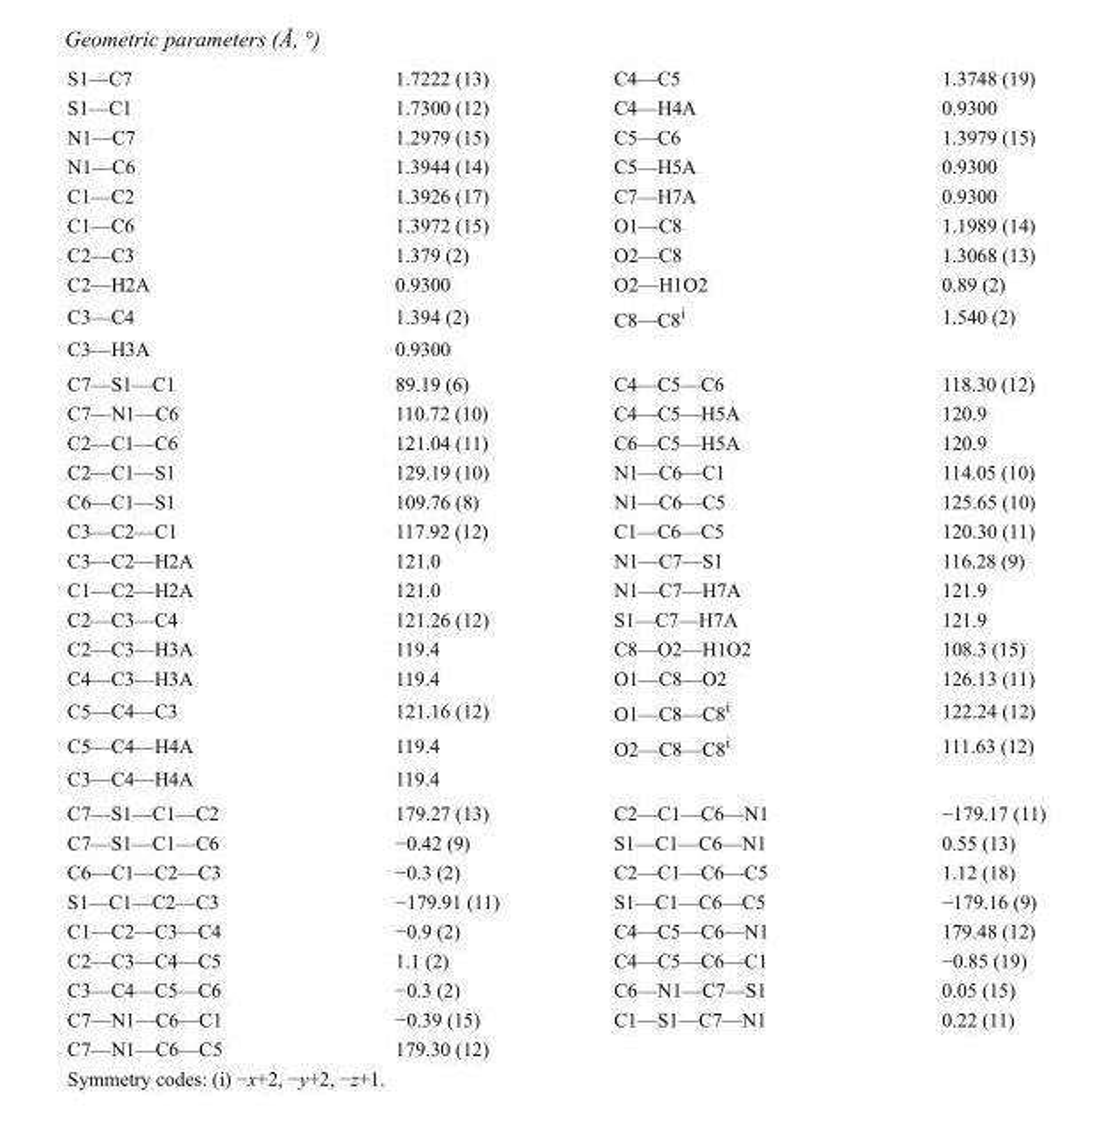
<table><tbody><tr><td>S1—C7</td><td>1.7222 (13)</td><td>C4—C5</td><td>1.3748 (19)</td></tr><tr><td>S1—C1</td><td>1.7300 (12)</td><td>C4—H4A</td><td>0.9300</td></tr><tr><td>N1—C7</td><td>1.2979 (15)</td><td>C5—C6</td><td>1.3979 (15)</td></tr><tr><td>N1—C6</td><td>1.3944 (14)</td><td>C5—H5A</td><td>0.9300</td></tr><tr><td>C1—C2</td><td>1.3926 (17)</td><td>C7—H7A</td><td>0.9300</td></tr><tr><td>C1—C6</td><td>1.3972 (15)</td><td>O1—C8</td><td>1.1989 (14)</td></tr><tr><td>C2—C3</td><td>1.379 (2)</td><td>O2—C8</td><td>1.3068 (13)</td></tr><tr><td>C2—H2A</td><td>0.9300</td><td>O2—H1O2</td><td>0.89 (2)</td></tr><tr><td>C3—C4</td><td>1.394 (2)</td><td>C8—C8<sup>i</sup></td><td>1.540 (2)</td></tr><tr><td>C3—H3A</td><td>0.9300</td><td></td><td></td></tr><tr><td>C7—S1—C1</td><td>89.19 (6)</td><td>C4—C5—C6</td><td>118.30 (12)</td></tr><tr><td>C7—N1—C6</td><td>110.72 (10)</td><td>C4—C5—H5A</td><td>120.9</td></tr><tr><td>C2—C1—C6</td><td>121.04 (11)</td><td>C6—C5—H5A</td><td>120.9</td></tr><tr><td>C2—C1—S1</td><td>129.19 (10)</td><td>N1—C6—C1</td><td>114.05 (10)</td></tr><tr><td>C6—C1—S1</td><td>109.76 (8)</td><td>N1—C6—C5</td><td>125.65 (10)</td></tr><tr><td>C3—C2—C1</td><td>117.92 (12)</td><td>C1—C6—C5</td><td>120.30 (11)</td></tr><tr><td>C3—C2—H2A</td><td>121.0</td><td>N1—C7—S1</td><td>116.28 (9)</td></tr><tr><td>C1—C2—H2A</td><td>121.0</td><td>N1—C7—H7A</td><td>121.9</td></tr><tr><td>C2—C3—C4</td><td>121.26 (12)</td><td>S1—C7—H7A</td><td>121.9</td></tr><tr><td>C2—C3—H3A</td><td>119.4</td><td>C8—O2—H1O2</td><td>108.3 (15)</td></tr><tr><td>C4—C3—H3A</td><td>119.4</td><td>O1—C8—O2</td><td>126.13 (11)</td></tr><tr><td>C5—C4—C3</td><td>121.16 (12)</td><td>O1—C8—C8<sup>i</sup></td><td>122.24 (12)</td></tr><tr><td>C5—C4—H4A</td><td>119.4</td><td>O2—C8—C8<sup>i</sup></td><td>111.63 (12)</td></tr><tr><td>C3—C4—H4A</td><td>119.4</td><td></td><td></td></tr><tr><td>C7—S1—C1—C2</td><td>179.27 (13)</td><td>C2—C1—C6—N1</td><td>−179.17 (11)</td></tr><tr><td>C7—S1—C1—C6</td><td>−0.42 (9)</td><td>S1—C1—C6—N1</td><td>0.55 (13)</td></tr><tr><td>C6—C1—C2—C3</td><td>−0.3 (2)</td><td>C2—C1—C6—C5</td><td>1.12 (18)</td></tr><tr><td>S1—C1—C2—C3</td><td>−179.91 (11)</td><td>S1—C1—C6—C5</td><td>−179.16 (9)</td></tr><tr><td>C1—C2—C3—C4</td><td>−0.9 (2)</td><td>C4—C5—C6—N1</td><td>179.48 (12)</td></tr><tr><td>C2—C3—C4—C5</td><td>1.1 (2)</td><td>C4—C5—C6—C1</td><td>−0.85 (19)</td></tr><tr><td>C3—C4—C5—C6</td><td>−0.3 (2)</td><td>C6—N1—C7—S1</td><td>0.05 (15)</td></tr><tr><td>C7—N1—C6—C1</td><td>−0.39 (15)</td><td>C1—S1—C7—N1</td><td>0.22 (11)</td></tr><tr><td>C7—N1—C6—C5</td><td>179.30 (12)</td><td></td><td></td></tr></tbody></table>